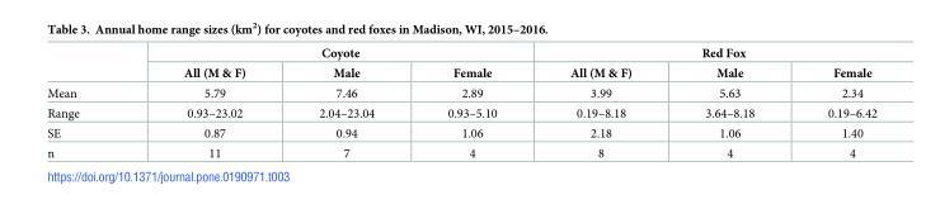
<table><thead><tr><td rowspan="2"></td><td colspan="3">Coyote</td><td colspan="3">Red Fox</td></tr><tr><td>All (M &amp; F)</td><td>Male</td><td>Female</td><td>All (M &amp; F)</td><td>Male</td><td>Female</td></tr></thead><tbody><tr><td>Mean</td><td>5.79</td><td>7.46</td><td>2.89</td><td>3.99</td><td>5.63</td><td>2.34</td></tr><tr><td>Range</td><td>0.93–23.02</td><td>2.04–23.04</td><td>0.93–5.10</td><td>0.19–8.18</td><td>3.64–8.18</td><td>0.19–6.42</td></tr><tr><td>SE</td><td>0.87</td><td>0.94</td><td>1.06</td><td>2.18</td><td>1.06</td><td>1.40</td></tr><tr><td>n</td><td>11</td><td>7</td><td>4</td><td>8</td><td>4</td><td>4</td></tr></tbody></table>